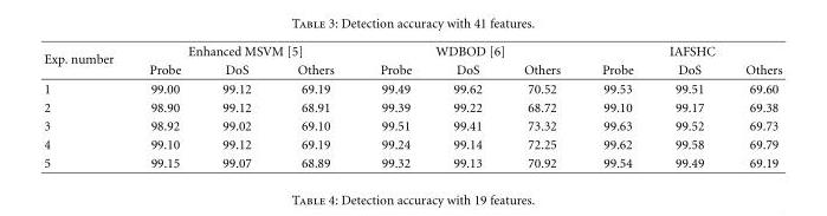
<table><thead><tr><td rowspan="2">Exp. number</td><td colspan="3">Enhanced MSVM [5]</td><td colspan="3">WDBOD [6]</td><td colspan="3">IAFSHC</td></tr><tr><td>Probe</td><td>DoS</td><td>Others</td><td>Probe</td><td>DoS</td><td>Others</td><td>Probe</td><td>DoS</td><td>Others</td></tr></thead><tbody><tr><td>1</td><td>99.00</td><td>99.12</td><td>69.19</td><td>99.49</td><td>99.62</td><td>70.52</td><td>99.53</td><td>99.51</td><td>69.60</td></tr><tr><td>2</td><td>98.90</td><td>99.12</td><td>68.91</td><td>99.39</td><td>99.22</td><td>68.72</td><td>99.10</td><td>99.17</td><td>69.38</td></tr><tr><td>3</td><td>98.92</td><td>99.02</td><td>69.10</td><td>99.51</td><td>99.41</td><td>73.32</td><td>99.63</td><td>99.52</td><td>69.73</td></tr><tr><td>4</td><td>99.10</td><td>99.12</td><td>69.19</td><td>99.24</td><td>99.14</td><td>72.25</td><td>99.62</td><td>99.58</td><td>69.79</td></tr><tr><td>5</td><td>99.15</td><td>99.07</td><td>68.89</td><td>99.32</td><td>99.13</td><td>70.92</td><td>99.54</td><td>99.49</td><td>69.19</td></tr></tbody></table>